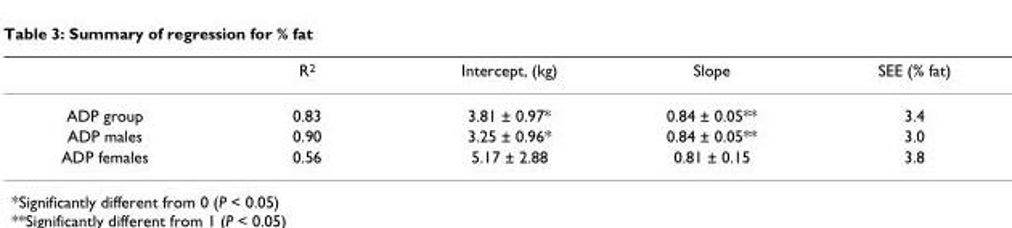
<table><thead><tr><td></td><td>R<sup>2</sup></td><td>Intercept, (kg)</td><td>Slope</td><td>SEE (% fat)</td></tr></thead><tbody><tr><td>ADP group</td><td>0.83</td><td>3.81 ± 0.97*</td><td>0.84 ± 0.05**</td><td>3.4</td></tr><tr><td>ADP males</td><td>0.90</td><td>3.25 ± 0.96*</td><td>0.84 ± 0.05**</td><td>3.0</td></tr><tr><td>ADP females</td><td>0.56</td><td>5.17 ± 2.88</td><td>0.81 ± 0.15</td><td>3.8</td></tr></tbody></table>